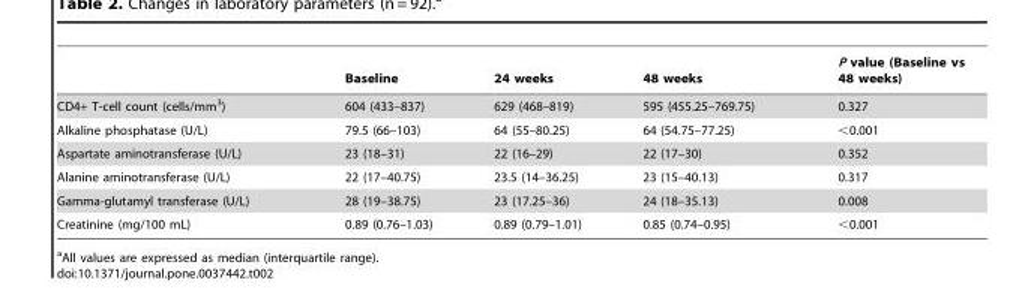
<table><thead><tr><td></td><td>Baseline</td><td>24 weeks</td><td>48 weeks</td><td>P value (Baseline vs 48 weeks)</td></tr></thead><tbody><tr><td>CD4+ T-cell count (cells/mm<sup>3</sup>)</td><td>604 (433–837)</td><td>629 (468–819)</td><td>595 (455.25–769.75)</td><td>0.327</td></tr><tr><td>Alkaline phosphatase (U/L)</td><td>79.5 (66–103)</td><td>64 (55–80.25)</td><td>64 (54.75–77.25)</td><td>&lt;0.001</td></tr><tr><td>Aspartate aminotransferase (U/L)</td><td>23 (18–31)</td><td>22 (16–29)</td><td>22 (17–30)</td><td>0.352</td></tr><tr><td>Alanine aminotransferase (U/L)</td><td>22 (17–40.75)</td><td>23.5 (14–36.25)</td><td>23 (15–40.13)</td><td>0.317</td></tr><tr><td>Gamma-glutamyl transferase (U/L)</td><td>28 (19–38.75)</td><td>23 (17.25–36)</td><td>24 (18–35.13)</td><td>0.008</td></tr><tr><td>Creatinine (mg/100 mL)</td><td>0.89 (0.76–1.03)</td><td>0.89 (0.79–1.01)</td><td>0.85 (0.74–0.95)</td><td>&lt;0.001</td></tr></tbody></table>